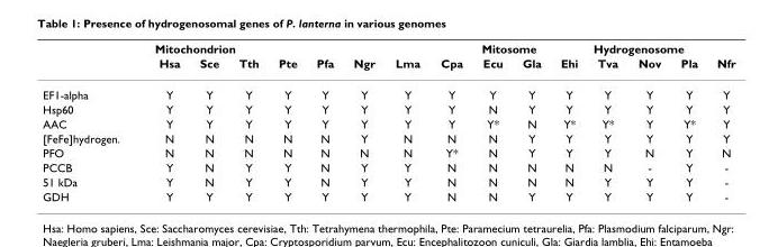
<table><thead><tr><td rowspan="2"></td><td colspan="7">Mitochondrion</td><td colspan="4">Mitosome</td><td colspan="4">Hydrogenosome</td></tr><tr><td>Hsa</td><td>Sce</td><td>Tth</td><td>Pte</td><td>Pfa</td><td>Ngr</td><td>Lma</td><td>Cpa</td><td>Ecu</td><td>Gla</td><td>Ehi</td><td>Tva</td><td>Nov</td><td>Pla</td><td>Nfr</td></tr></thead><tbody><tr><td>EF1-alpha</td><td>Y</td><td>Y</td><td>Y</td><td>Y</td><td>Y</td><td>Y</td><td>Y</td><td>Y</td><td>Y</td><td>Y</td><td>Y</td><td>Y</td><td>Y</td><td>Y</td><td>Y</td></tr><tr><td>Hsp60</td><td>Y</td><td>Y</td><td>Y</td><td>Y</td><td>Y</td><td>Y</td><td>Y</td><td>Y</td><td>N</td><td>Y</td><td>Y</td><td>Y</td><td>Y</td><td>Y</td><td>Y</td></tr><tr><td>AAC</td><td>Y</td><td>Y</td><td>Y</td><td>Y</td><td>Y</td><td>Y</td><td>Y</td><td>Y</td><td>Y*</td><td>N</td><td>Y*</td><td>Y*</td><td>Y</td><td>Y*</td><td>Y</td></tr><tr><td>[FeFe]hydrogen.</td><td>N</td><td>N</td><td>N</td><td>N</td><td>N</td><td>Y</td><td>N</td><td>N</td><td>N</td><td>Y</td><td>Y</td><td>Y</td><td>Y</td><td>Y</td><td>Y</td></tr><tr><td>PFO</td><td>N</td><td>N</td><td>N</td><td>N</td><td>N</td><td>N</td><td>N</td><td>Y*</td><td>N</td><td>Y</td><td>Y</td><td>Y</td><td>N</td><td>Y</td><td>N</td></tr><tr><td>PCCB</td><td>Y</td><td>N</td><td>Y</td><td>Y</td><td>N</td><td>Y</td><td>Y</td><td>N</td><td>N</td><td>N</td><td>N</td><td>N</td><td>-</td><td>Y</td><td>-</td></tr><tr><td>51 kDa</td><td>Y</td><td>N</td><td>Y</td><td>Y</td><td>N</td><td>Y</td><td>Y</td><td>N</td><td>N</td><td>N</td><td>N</td><td>Y</td><td>Y</td><td>Y</td><td>-</td></tr><tr><td>GDH</td><td>Y</td><td>Y</td><td>Y</td><td>Y</td><td>Y</td><td>Y</td><td>Y</td><td>N</td><td>N</td><td>Y</td><td>Y</td><td>Y</td><td>Y</td><td>Y</td><td>-</td></tr></tbody></table>